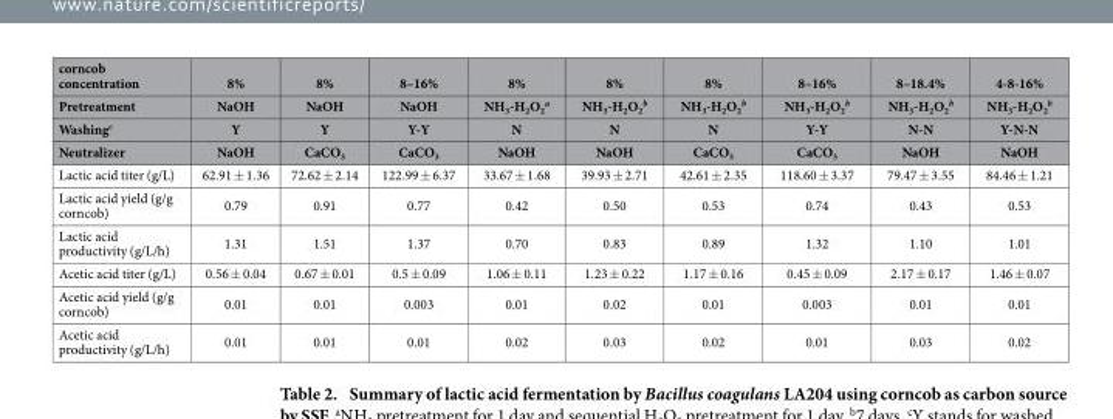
<table><thead><tr><td rowspan="4">corncob concentration Pretreatment Washing<sup>c</sup> Neutralizer</td><td rowspan="4">8% NaOH Y NaOH</td><td rowspan="4">8% NaOH Y CaCO<sub>3</sub></td><td rowspan="4">8–16% NaOH Y-Y CaCO<sub>3</sub></td><td rowspan="4">8% NH<sub>3</sub>-H<sub>2</sub>O<sub>2</sub> <sup>a</sup> N NaOH</td><td rowspan="4">8% NH<sub>3</sub>-H<sub>2</sub>O<sub>2</sub> <sup>b</sup> N NaOH</td><td rowspan="4">8% NH<sub>3</sub>-H<sub>2</sub>O<sub>2</sub> <sup>b</sup> N CaCO<sub>3</sub></td><td rowspan="4">8–16% NH<sub>3</sub>-H<sub>2</sub>O<sub>2</sub> <sup>b</sup> Y-Y CaCO<sub>3</sub></td><td rowspan="4">8–18.4% NH<sub>3</sub>-H<sub>2</sub>O<sub>2</sub> <sup>b</sup> N-N NaOH</td><td rowspan="4">4-8-16% NH<sub>3</sub>-H<sub>2</sub>O<sub>2</sub> <sup>b</sup> Y-N-N NaOH</td></tr><tr></tr><tr></tr><tr></tr></thead><tbody><tr><td>Lactic acid titer (g/L)</td><td>62.91 ± 1.36</td><td>72.62 ± 2.14</td><td>122.99 ± 6.37</td><td>33.67 ± 1.68</td><td>39.93 ± 2.71</td><td>42.61 ± 2.35</td><td>118.60 ± 3.37</td><td>79.47 ± 3.55</td><td>84.46 ± 1.21</td></tr><tr><td>Lactic acid yield (g/g corncob)</td><td>0.79</td><td>0.91</td><td>0.77</td><td>0.42</td><td>0.50</td><td>0.53</td><td>0.74</td><td>0.43</td><td>0.53</td></tr><tr><td>Lactic acid productivity (g/L/h)</td><td>1.31</td><td>1.51</td><td>1.37</td><td>0.70</td><td>0.83</td><td>0.89</td><td>1.32</td><td>1.10</td><td>1.01</td></tr><tr><td>Acetic acid titer (g/L)</td><td>0.56 ± 0.04</td><td>0.67 ± 0.01</td><td>0.5 ± 0.09</td><td>1.06 ± 0.11</td><td>1.23 ± 0.22</td><td>1.17 ± 0.16</td><td>0.45 ± 0.09</td><td>2.17 ± 0.17</td><td>1.46 ± 0.07</td></tr><tr><td>Acetic acid yield (g/g corncob)</td><td>0.01</td><td>0.01</td><td>0.003</td><td>0.01</td><td>0.02</td><td>0.01</td><td>0.003</td><td>0.01</td><td>0.01</td></tr><tr><td>Acetic acid productivity (g/L/h)</td><td>0.01</td><td>0.01</td><td>0.01</td><td>0.02</td><td>0.03</td><td>0.02</td><td>0.01</td><td>0.03</td><td>0.02</td></tr></tbody></table>